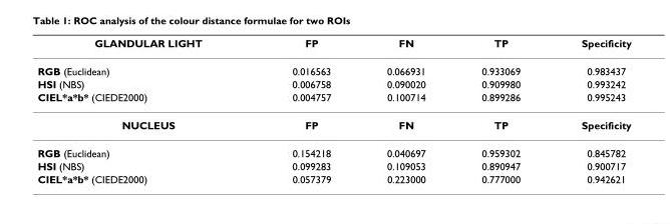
<table><thead><tr><td>GLANDULAR LIGHT</td><td>FP</td><td>FN</td><td>TP</td><td>Specificity</td></tr></thead><tbody><tr><td>RGB (Euclidean)</td><td>0.016563</td><td>0.066931</td><td>0.933069</td><td>0.983437</td></tr><tr><td>HSI (NBS)</td><td>0.006758</td><td>0.090020</td><td>0.909980</td><td>0.993242</td></tr><tr><td>CIEL*a*b* (CIEDE2000)</td><td>0.004757</td><td>0.100714</td><td>0.899286</td><td>0.995243</td></tr><tr><td>NUCLEUS</td><td>FP</td><td>FN</td><td>TP</td><td>Specificity</td></tr><tr><td>RGB (Euclidean)</td><td>0.154218</td><td>0.040697</td><td>0.959302</td><td>0.845782</td></tr><tr><td>HSI (NBS)</td><td>0.099283</td><td>0.109053</td><td>0.890947</td><td>0.900717</td></tr><tr><td>CIEL*a*b* (CIEDE2000)</td><td>0.057379</td><td>0.223000</td><td>0.777000</td><td>0.942621</td></tr></tbody></table>